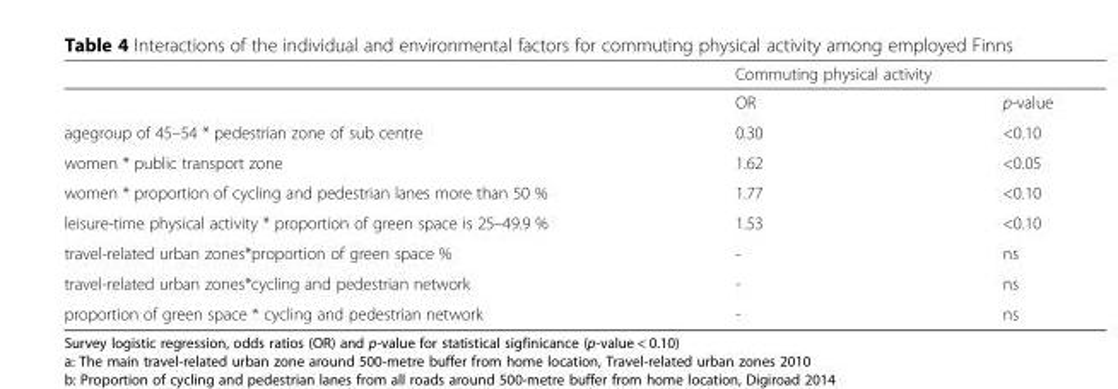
<table><thead><tr><td rowspan="2"></td><td colspan="2">Commuting physical activity</td></tr><tr><td>OR</td><td>p-value</td></tr></thead><tbody><tr><td>agegroup of 45–54 * pedestrian zone of sub centre</td><td>0.30</td><td>&lt;0.10</td></tr><tr><td>women * public transport zone</td><td>1.62</td><td>&lt;0.05</td></tr><tr><td>women * proportion of cycling and pedestrian lanes more than 50 %</td><td>1.77</td><td>&lt;0.10</td></tr><tr><td>leisure-time physical activity * proportion of green space is 25–49.9 %</td><td>1.53</td><td>&lt;0.10</td></tr><tr><td>travel-related urban zones*proportion of green space %</td><td>-</td><td>ns</td></tr><tr><td>travel-related urban zones*cycling and pedestrian network</td><td>-</td><td>ns</td></tr><tr><td>proportion of green space * cycling and pedestrian network</td><td>-</td><td>ns</td></tr></tbody></table>